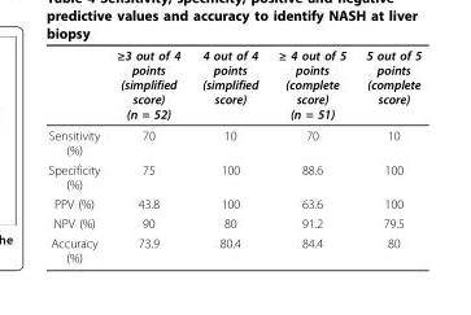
<table><thead><tr><td></td><td>≥3 out of 4 points (simplified score) (n = 52)</td><td>4 out of 4 points (simplified score)</td><td>≥ 4 out of 5 points (complete score) (n = 51)</td><td>5 out of 5 points (complete score)</td></tr></thead><tbody><tr><td>Sensitivity (%)</td><td>70</td><td>10</td><td>70</td><td>10</td></tr><tr><td>Specificity (%)</td><td>75</td><td>100</td><td>88.6</td><td>100</td></tr><tr><td>PPV (%)</td><td>43.8</td><td>100</td><td>63.6</td><td>100</td></tr><tr><td>NPV (%)</td><td>90</td><td>80</td><td>91.2</td><td>79.5</td></tr><tr><td>Accuracy (%)</td><td>73.9</td><td>80.4</td><td>84.4</td><td>80</td></tr></tbody></table>